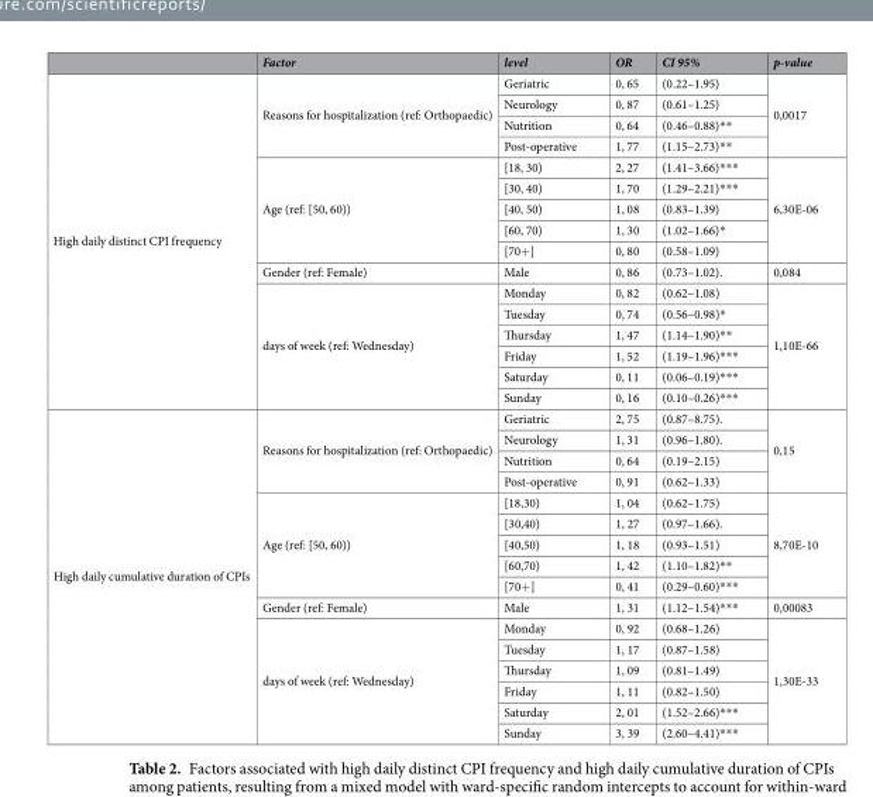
<table><thead><tr><td></td><td>Factor</td><td>level</td><td>OR</td><td>CI 95%</td><td>p-value</td></tr></thead><tbody><tr><td rowspan="16">High daily distinct CPI frequency</td><td rowspan="4">Reasons for hospitalization (ref: Orthopaedic)</td><td>Geriatric</td><td>0, 65</td><td>(0.22–1.95)</td><td rowspan="4">0,0017</td></tr><tr><td>Neurology</td><td>0, 87</td><td>(0.61–1.25)</td></tr><tr><td>Nutrition</td><td>0, 64</td><td>(0.46–0.88)**</td></tr><tr><td>Post-operative</td><td>1, 77</td><td>(1.15–2.73)**</td></tr><tr><td rowspan="5">Age (ref: [50, 60))</td><td>[18, 30)</td><td>2, 27</td><td>(1.41–3.66)***</td><td rowspan="5">6,30E-06</td></tr><tr><td>[30, 40)</td><td>1, 70</td><td>(1.29–2.21)***</td></tr><tr><td>[40, 50)</td><td>1, 08</td><td>(0.83–1.39)</td></tr><tr><td>[60, 70)</td><td>1, 30</td><td>(1.02–1.66)*</td></tr><tr><td>[70+]</td><td>0, 80</td><td>(0.58–1.09)</td></tr><tr><td>Gender (ref: Female)</td><td>Male</td><td>0, 86</td><td>(0.73–1.02).</td><td>0,084</td></tr><tr><td rowspan="6">days of week (ref: Wednesday)</td><td>Monday</td><td>0, 82</td><td>(0.62–1.08)</td><td rowspan="6">1,10E-66</td></tr><tr><td>Tuesday</td><td>0, 74</td><td>(0.56–0.98)*</td></tr><tr><td>Thursday</td><td>1, 47</td><td>(1.14–1.90)**</td></tr><tr><td>Friday</td><td>1, 52</td><td>(1.19–1.96)***</td></tr><tr><td>Saturday</td><td>0, 11</td><td>(0.06–0.19)***</td></tr><tr><td>Sunday</td><td>0, 16</td><td>(0.10–0.26)***</td></tr><tr><td rowspan="16">High daily cumulative duration of CPIs</td><td rowspan="4">Reasons for hospitalization (ref: Orthopaedic)</td><td>Geriatric</td><td>2, 75</td><td>(0.87–8.75).</td><td rowspan="4">0,15</td></tr><tr><td>Neurology</td><td>1, 31</td><td>(0.96–1.80).</td></tr><tr><td>Nutrition</td><td>0, 64</td><td>(0.19–2.15)</td></tr><tr><td>Post-operative</td><td>0, 91</td><td>(0.62–1.33)</td></tr><tr><td rowspan="5">Age (ref: [50, 60))</td><td>[18,30)</td><td>1, 04</td><td>(0.62–1.75)</td><td rowspan="5">8,70E-10</td></tr><tr><td>[30,40)</td><td>1, 27</td><td>(0.97–1.66).</td></tr><tr><td>[40,50)</td><td>1, 18</td><td>(0.93–1.51)</td></tr><tr><td>[60,70)</td><td>1, 42</td><td>(1.10–1.82)**</td></tr><tr><td>[70+]</td><td>0, 41</td><td>(0.29–0.60)***</td></tr><tr><td>Gender (ref: Female)</td><td>Male</td><td>1, 31</td><td>(1.12–1.54)***</td><td>0,00083</td></tr><tr><td rowspan="6">days of week (ref: Wednesday)</td><td>Monday</td><td>0, 92</td><td>(0.68–1.26)</td><td rowspan="6">1,30E-33</td></tr><tr><td>Tuesday</td><td>1, 17</td><td>(0.87–1.58)</td></tr><tr><td>Thursday</td><td>1, 09</td><td>(0.81–1.49)</td></tr><tr><td>Friday</td><td>1, 11</td><td>(0.82–1.50)</td></tr><tr><td>Saturday</td><td>2, 01</td><td>(1.52–2.66)***</td></tr><tr><td>Sunday</td><td>3, 39</td><td>(2.60–4.41)***</td></tr></tbody></table>